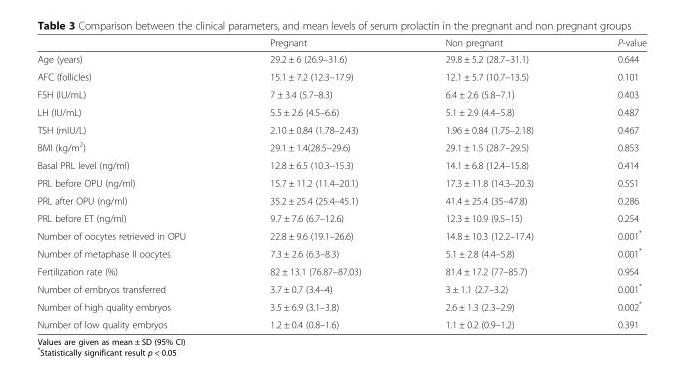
<table><thead><tr><td></td><td>Pregnant</td><td>Non pregnant</td><td>P-value</td></tr></thead><tbody><tr><td>Age (years)</td><td>29.2 ± 6 (26.9–31.6)</td><td>29.8 ± 5.2 (28.7–31.1)</td><td>0.644</td></tr><tr><td>AFC (follicles)</td><td>15.1 ± 7.2 (12.3–17.9)</td><td>12.1 ± 5.7 (10.7–13.5)</td><td>0.101</td></tr><tr><td>FSH (IU/mL)</td><td>7 ± 3.4 (5.7–8.3)</td><td>6.4 ± 2.6 (5.8–7.1)</td><td>0.403</td></tr><tr><td>LH (IU/mL)</td><td>5.5 ± 2.6 (4.5–6.6)</td><td>5.1 ± 2.9 (4.4–5.8)</td><td>0.487</td></tr><tr><td>TSH (mIU/L)</td><td>2.10 ± 0.84 (1.78–2.43)</td><td>1.96 ± 0.84 (1.75–2.18)</td><td>0.467</td></tr><tr><td>BMI (kg/m<sup>2</sup>)</td><td>29.1 ± 1.4(28.5–29.6)</td><td>29.1 ± 1.5 (28.7–29.5)</td><td>0.853</td></tr><tr><td>Basal PRL level (ng/ml)</td><td>12.8 ± 6.5 (10.3–15.3)</td><td>14.1 ± 6.8 (12.4–15.8)</td><td>0.414</td></tr><tr><td>PRL before OPU (ng/ml)</td><td>15.7 ± 11.2 (11.4–20.1)</td><td>17.3 ± 11.8 (14.3–20.3)</td><td>0.551</td></tr><tr><td>PRL after OPU (ng/ml)</td><td>35.2 ± 25.4 (25.4–45.1)</td><td>41.4 ± 25.4 (35–47.8)</td><td>0.286</td></tr><tr><td>PRL before ET (ng/ml)</td><td>9.7 ± 7.6 (6.7–12.6)</td><td>12.3 ± 10.9 (9.5–15)</td><td>0.254</td></tr><tr><td>Number of oocytes retrieved in OPU</td><td>22.8 ± 9.6 (19.1–26.6)</td><td>14.8 ± 10.3 (12.2–17.4)</td><td>0.001*</td></tr><tr><td>Number of metaphase II oocytes</td><td>7.3 ± 2.6 (6.3–8.3)</td><td>5.1 ± 2.8 (4.4–5.8)</td><td>0.001*</td></tr><tr><td>Fertilization rate (%)</td><td>82 ± 13.1 (76.87–87.03)</td><td>81.4 ± 17.2 (77–85.7)</td><td>0.954</td></tr><tr><td>Number of embryos transferred</td><td>3.7 ± 0.7 (3.4–4)</td><td>3 ± 1.1 (2.7–3.2)</td><td>0.001*</td></tr><tr><td>Number of high quality embryos</td><td>3.5 ± 6.9 (3.1–3.8)</td><td>2.6 ± 1.3 (2.3–2.9)</td><td>0.002*</td></tr><tr><td>Number of low quality embryos</td><td>1.2 ± 0.4 (0.8–1.6)</td><td>1.1 ± 0.2 (0.9–1.2)</td><td>0.391</td></tr></tbody></table>